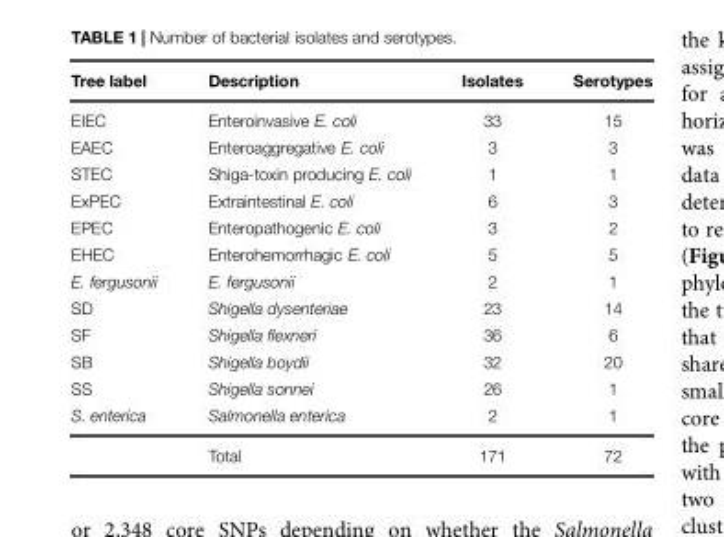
<table><thead><tr><td>Tree label</td><td>Description</td><td>Isolates</td><td>Serotypes</td></tr></thead><tbody><tr><td>EIEC</td><td>Enteroinvasive E. coli</td><td>33</td><td>15</td></tr><tr><td>EAEC</td><td>Enteroaggregative E. coli</td><td>3</td><td>3</td></tr><tr><td>STEC</td><td>Shiga-toxin producing E. coli</td><td>1</td><td>1</td></tr><tr><td>ExPEC</td><td>Extraintestinal E. coli</td><td>6</td><td>3</td></tr><tr><td>EPEC</td><td>Enteropathogenic E. coli</td><td>3</td><td>2</td></tr><tr><td>EHEC</td><td>Enterohemorrhagic E. coli</td><td>5</td><td>5</td></tr><tr><td>E. fergusonii</td><td>E. fergusonii</td><td>2</td><td>1</td></tr><tr><td>SD</td><td>Shigella dysenteriae</td><td>23</td><td>14</td></tr><tr><td>SF</td><td>Shigella flexneri</td><td>36</td><td>6</td></tr><tr><td>SB</td><td>Shigella boydii</td><td>32</td><td>20</td></tr><tr><td>SS</td><td>Shigella sonnei</td><td>26</td><td>1</td></tr><tr><td rowspan="2">S. enterica</td><td>Salmonella enterica</td><td>2</td><td>1</td></tr><tr><td>Total</td><td>171</td><td>72</td></tr></tbody></table>